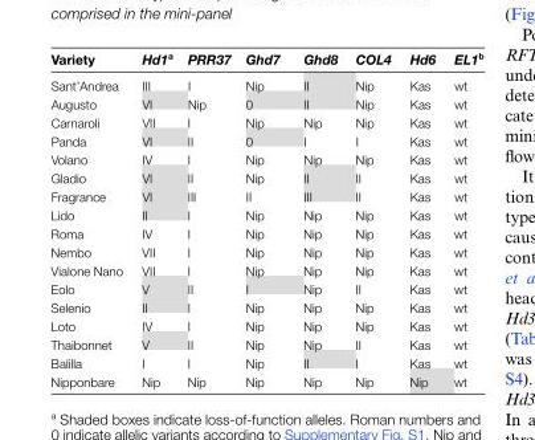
<table><thead><tr><td>Variety</td><td>Hd1<sup>a</sup></td><td>PRR37</td><td>Ghd7</td><td>Ghd8</td><td>COL4</td><td>Hd6</td><td>EL1b</td></tr></thead><tbody><tr><td>Sant’Andrea</td><td>III</td><td>I</td><td>Nip</td><td>II</td><td>Nip</td><td>Kas</td><td>wt</td></tr><tr><td>Augusto</td><td>VI</td><td>Nip</td><td>0</td><td>II</td><td>Nip</td><td>Kas</td><td>wt</td></tr><tr><td>Carnaroli</td><td>VII</td><td>I</td><td>Nip</td><td>Nip</td><td>Nip</td><td>Kas</td><td>wt</td></tr><tr><td>Panda</td><td>VI</td><td>II</td><td>0</td><td>I</td><td>I</td><td>Kas</td><td>wt</td></tr><tr><td>Volano</td><td>IV</td><td>I</td><td>Nip</td><td>Nip</td><td>Nip</td><td>Kas</td><td>wt</td></tr><tr><td>Gladio</td><td>VI</td><td>II</td><td>Nip</td><td>II</td><td>II</td><td>Kas</td><td>wt</td></tr><tr><td>Fragrance</td><td>VI</td><td>III</td><td>II</td><td>III</td><td>II</td><td>Kas</td><td>wt</td></tr><tr><td>Lido</td><td>II</td><td>I</td><td>Nip</td><td>Nip</td><td>Nip</td><td>Kas</td><td>wt</td></tr><tr><td>Roma</td><td>IV</td><td>I</td><td>Nip</td><td>Nip</td><td>Nip</td><td>Kas</td><td>wt</td></tr><tr><td>Nembo</td><td>VII</td><td>I</td><td>Nip</td><td>Nip</td><td>Nip</td><td>Kas</td><td>wt</td></tr><tr><td>Vialone Nano</td><td>VII</td><td>I</td><td>Nip</td><td>Nip</td><td>Nip</td><td>Kas</td><td>wt</td></tr><tr><td>Eolo</td><td>V</td><td>II</td><td>I</td><td>Nip</td><td>II</td><td>Kas</td><td>wt</td></tr><tr><td>Selenio</td><td>II</td><td>I</td><td>Nip</td><td>Nip</td><td>Nip</td><td>Kas</td><td>wt</td></tr><tr><td>Loto</td><td>IV</td><td>I</td><td>Nip</td><td>Nip</td><td>Nip</td><td>Kas</td><td>wt</td></tr><tr><td>Thaibonnet</td><td>V</td><td>II</td><td>Nip</td><td>Nip</td><td>II</td><td>Kas</td><td>wt</td></tr><tr><td>Balilla</td><td>I</td><td>I</td><td>Nip</td><td>II</td><td>I</td><td>Kas</td><td>wt</td></tr><tr><td>Nipponbare</td><td>Nip</td><td>Nip</td><td>Nip</td><td>Nip</td><td>Nip</td><td>Nip</td><td>wt</td></tr></tbody></table>